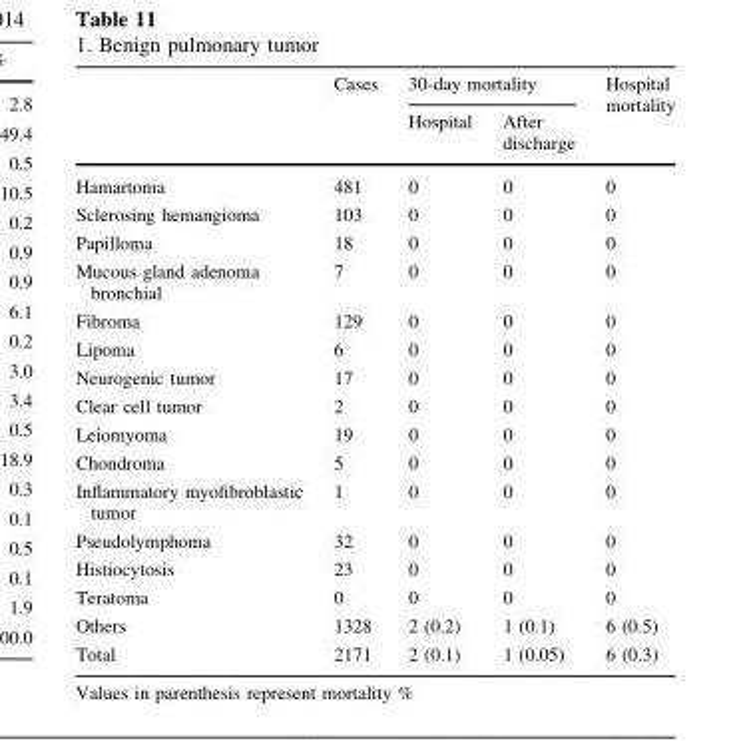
<table><thead><tr><td rowspan="2"></td><td rowspan="2">Cases</td><td colspan="2">30-day mortality</td><td rowspan="2">Hospital mortality</td></tr><tr><td>Hospital</td><td>After discharge</td></tr></thead><tbody><tr><td>Hamartoma</td><td>481</td><td>0</td><td>0</td><td>0</td></tr><tr><td>Sclerosing hemangioma</td><td>103</td><td>0</td><td>0</td><td>0</td></tr><tr><td>Papilloma</td><td>18</td><td>0</td><td>0</td><td>0</td></tr><tr><td>Mucous gland adenoma bronchial</td><td>7</td><td>0</td><td>0</td><td>0</td></tr><tr><td>Fibroma</td><td>129</td><td>0</td><td>0</td><td>0</td></tr><tr><td>Lipoma</td><td>6</td><td>0</td><td>0</td><td>0</td></tr><tr><td>Neurogenic tumor</td><td>17</td><td>0</td><td>0</td><td>0</td></tr><tr><td>Clear cell tumor</td><td>2</td><td>0</td><td>0</td><td>0</td></tr><tr><td>Leiomyoma</td><td>19</td><td>0</td><td>0</td><td>0</td></tr><tr><td>Chondroma</td><td>5</td><td>0</td><td>0</td><td>0</td></tr><tr><td>Inflammatory myofibroblastic tumor</td><td>1</td><td>0</td><td>0</td><td>0</td></tr><tr><td>Pseudolymphoma</td><td>32</td><td>0</td><td>0</td><td>0</td></tr><tr><td>Histiocytosis</td><td>23</td><td>0</td><td>0</td><td>0</td></tr><tr><td>Teratoma</td><td>0</td><td>0</td><td>0</td><td>0</td></tr><tr><td>Others</td><td>1328</td><td>2 (0.2)</td><td>1 (0.1)</td><td>6 (0.5)</td></tr><tr><td>Total</td><td>2171</td><td>2 (0.1)</td><td>1 (0.05)</td><td>6 (0.3)</td></tr></tbody></table>